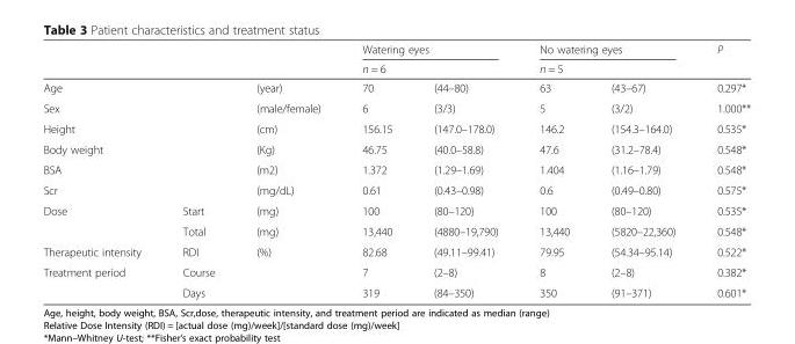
<table><thead><tr><td rowspan="2"></td><td rowspan="2"></td><td rowspan="3">(year)</td><td rowspan="2" colspan="2">Watering eyes n = 6</td><td rowspan="2" colspan="2">No watering eyes n = 5</td><td rowspan="3">P 0.297*</td></tr><tr></tr><tr><td colspan="2">Age</td><td>70</td><td>(44–80)</td><td>63</td><td>(43–67)</td></tr></thead><tbody><tr><td colspan="2">Sex</td><td>(male/female)</td><td>6</td><td>(3/3)</td><td>5</td><td>(3/2)</td><td>1.000**</td></tr><tr><td colspan="2">Height</td><td>(cm)</td><td>156.15</td><td>(147.0–178.0)</td><td>146.2</td><td>(154.3–164.0)</td><td>0.535*</td></tr><tr><td colspan="2">Body weight</td><td>(Kg)</td><td>46.75</td><td>(40.0–58.8)</td><td>47.6</td><td>(31.2–78.4)</td><td>0.548*</td></tr><tr><td colspan="2">BSA</td><td>(m2)</td><td>1.372</td><td>(1.29–1.69)</td><td>1.404</td><td>(1.16–1.79)</td><td>0.548*</td></tr><tr><td colspan="2">Scr</td><td>(mg/dL)</td><td>0.61</td><td>(0.43–0.98)</td><td>0.6</td><td>(0.49–0.80)</td><td>0.575*</td></tr><tr><td rowspan="2">Dose</td><td>Start</td><td>(mg)</td><td>100</td><td>(80–120)</td><td>100</td><td>(80–120)</td><td>0.535*</td></tr><tr><td>Total</td><td>(mg)</td><td>13,440</td><td>(4880–19,790)</td><td>13,440</td><td>(5820–22,360)</td><td>0.548*</td></tr><tr><td>Therapeutic intensity</td><td>RDI</td><td>(%)</td><td>82.68</td><td>(49.11–99.41)</td><td>79.95</td><td>(54.34–95.14)</td><td>0.522*</td></tr><tr><td rowspan="2">Treatment period</td><td>Course</td><td></td><td>7</td><td>(2–8)</td><td>8</td><td>(2–8)</td><td>0.382*</td></tr><tr><td>Days</td><td></td><td>319</td><td>(84–350)</td><td>350</td><td>(91–371)</td><td>0.601*</td></tr></tbody></table>